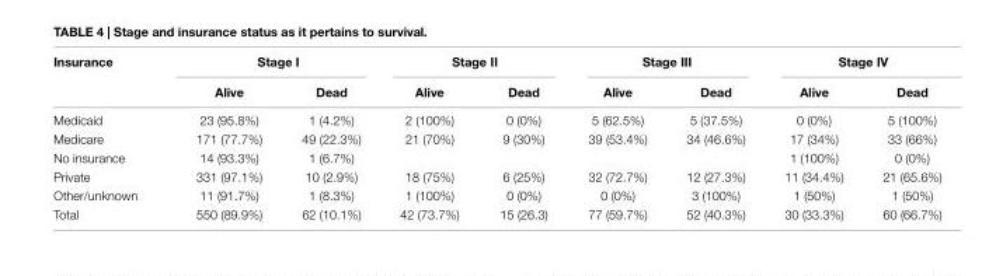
<table><thead><tr><td rowspan="2">insurance</td><td colspan="2">stage i</td><td colspan="2">stage ii</td><td colspan="2">stage iii</td><td colspan="2">stage iV</td></tr><tr><td>alive</td><td>Dead</td><td>alive</td><td>Dead</td><td>alive</td><td>Dead</td><td>alive</td><td>Dead</td></tr></thead><tbody><tr><td>Medicaid</td><td>23 (95.8%)</td><td>1 (4.2%)</td><td>2 (100%)</td><td>0 (0%)</td><td>5 (62.5%)</td><td>5 (37.5%)</td><td>0 (0%)</td><td>5 (100%)</td></tr><tr><td>Medicare</td><td>171 (77.7%)</td><td>49 (22.3%)</td><td>21 (70%)</td><td>9 (30%)</td><td>39 (53.4%)</td><td>34 (46.6%)</td><td>17 (34%)</td><td>33 (66%)</td></tr><tr><td>No insurance</td><td>14 (93.3%)</td><td>1 (6.7%)</td><td></td><td></td><td></td><td></td><td>1 (100%)</td><td>0 (0%)</td></tr><tr><td>Private</td><td>331 (97.1%)</td><td>10 (2.9%)</td><td>18 (75%)</td><td>6 (25%)</td><td>32 (72.7%)</td><td>12 (27.3%)</td><td>11 (34.4%)</td><td>21 (65.6%)</td></tr><tr><td>Other/unknown</td><td>11 (91.7%)</td><td>1 (8.3%)</td><td>1 (100%)</td><td>0 (0%)</td><td>0 (0%)</td><td>3 (100%)</td><td>1 (50%)</td><td>1 (50%)</td></tr><tr><td>Total</td><td>550 (89.9%)</td><td>62 (10.1%)</td><td>42 (73.7%)</td><td>15 (26.3)</td><td>77 (59.7%)</td><td>52 (40.3%)</td><td>30 (33.3%)</td><td>60 (66.7%)</td></tr></tbody></table>